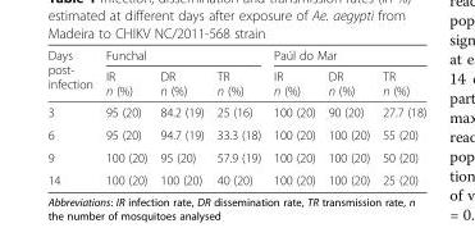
<table><thead><tr><td rowspan="2">Days post- infection</td><td colspan="3">Funchal</td><td colspan="3">Paúl do Mar</td></tr><tr><td>IR n (%)</td><td>DR n (%)</td><td>TR n (%)</td><td>IR n (%)</td><td>DR n (%)</td><td>TR n (%)</td></tr></thead><tbody><tr><td>3</td><td>95 (20)</td><td>84.2 (19)</td><td>25 (16)</td><td>100 (20)</td><td>90 (20)</td><td>27.7 (18)</td></tr><tr><td>6</td><td>95 (20)</td><td>94.7 (19)</td><td>33.3 (18)</td><td>100 (20)</td><td>100 (20)</td><td>55 (20)</td></tr><tr><td>9</td><td>100 (20)</td><td>95 (20)</td><td>57.9 (19)</td><td>100 (20)</td><td>100 (20)</td><td>50 (20)</td></tr><tr><td>14</td><td>100 (20)</td><td>100 (20)</td><td>40 (20)</td><td>100 (20)</td><td>100 (20)</td><td>25 (20)</td></tr></tbody></table>